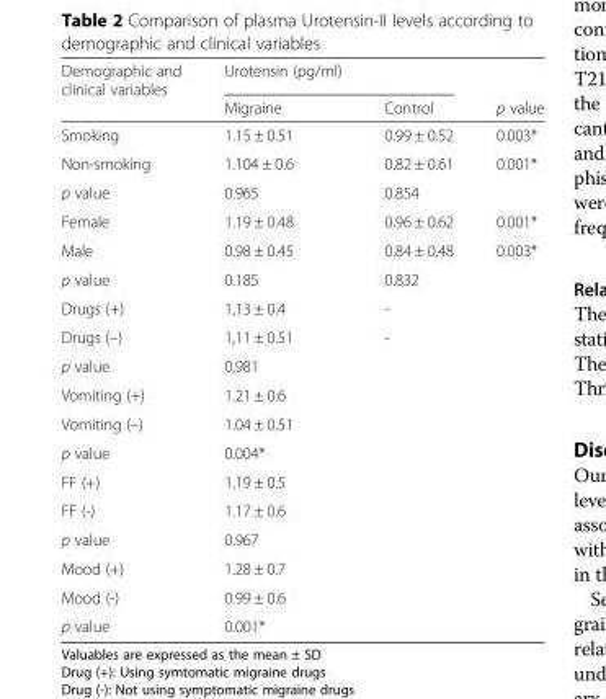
<table><thead><tr><td rowspan="2">Demographic and clinical variables</td><td rowspan="2">Urotensin (pg/ml) Migraine</td><td rowspan="2">Control</td><td rowspan="2">p value</td></tr><tr></tr></thead><tbody><tr><td>Smoking</td><td>1.15 ± 0.51</td><td>0.99 ± 0.52</td><td>0.003*</td></tr><tr><td>Non-smoking</td><td>1.104 ± 0.6</td><td>0.82 ± 0.61</td><td>0.001*</td></tr><tr><td>p value</td><td>0.965</td><td>0.854</td><td></td></tr><tr><td>Female</td><td>1.19 ± 0.48</td><td>0.96 ± 0.62</td><td>0.001*</td></tr><tr><td>Male</td><td>0.98 ± 0.45</td><td>0.84 ± 0.48</td><td>0.003*</td></tr><tr><td>p value</td><td>0.185</td><td>0.832</td><td></td></tr><tr><td>Drugs (+)</td><td>1,13 ± 0.4</td><td>-</td><td></td></tr><tr><td>Drugs (–)</td><td>1,11 ± 0.51</td><td>-</td><td></td></tr><tr><td>p value</td><td>0,981</td><td></td><td></td></tr><tr><td>Vomiting (+)</td><td>1.21 ± 0.6</td><td></td><td></td></tr><tr><td>Vomiting (–)</td><td>1.04 ± 0.51</td><td></td><td></td></tr><tr><td>p value</td><td>0.004*</td><td></td><td></td></tr><tr><td>FF (+)</td><td>1.19 ± 0.5</td><td></td><td></td></tr><tr><td>FF (-)</td><td>1.17 ± 0.6</td><td></td><td></td></tr><tr><td>p value</td><td>0.967</td><td></td><td></td></tr><tr><td>Mood (+)</td><td>1.28 ± 0.7</td><td></td><td></td></tr><tr><td>Mood (-)</td><td>0.99 ± 0.6</td><td></td><td></td></tr><tr><td>p value</td><td>0.001*</td><td></td><td></td></tr></tbody></table>